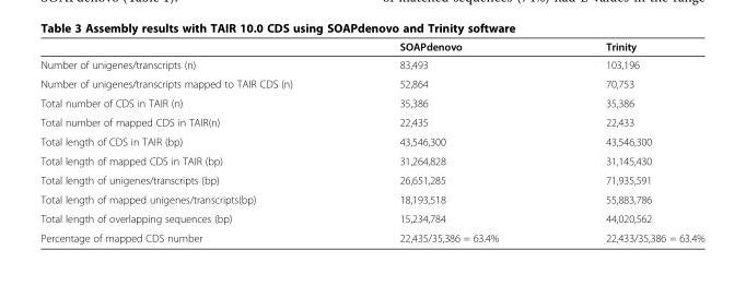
<table><thead><tr><td></td><td>SOAPdenovo</td><td>Trinity</td></tr></thead><tbody><tr><td>Number of unigenes/transcripts (n)</td><td>83,493</td><td>103,196</td></tr><tr><td>Number of unigenes/transcripts mapped to TAIR CDS (n)</td><td>52,864</td><td>70,753</td></tr><tr><td>Total number of CDS in TAIR (n)</td><td>35,386</td><td>35,386</td></tr><tr><td>Total number of mapped CDS in TAIR(n)</td><td>22,435</td><td>22,433</td></tr><tr><td>Total length of CDS in TAIR (bp)</td><td>43,546,300</td><td>43,546,300</td></tr><tr><td>Total length of mapped CDS in TAIR (bp)</td><td>31,264,828</td><td>31,145,430</td></tr><tr><td>Total length of unigenes/transcripts (bp)</td><td>26,651,285</td><td>71,935,591</td></tr><tr><td>Total length of mapped unigenes/transcripts(bp)</td><td>18,193,518</td><td>55,883,786</td></tr><tr><td>Total length of overlapping sequences (bp)</td><td>15,234,784</td><td>44,020,562</td></tr><tr><td>Percentage of mapped CDS number</td><td>22,435/35,386 = 63.4%</td><td>22,433/35,386 = 63.4%</td></tr></tbody></table>